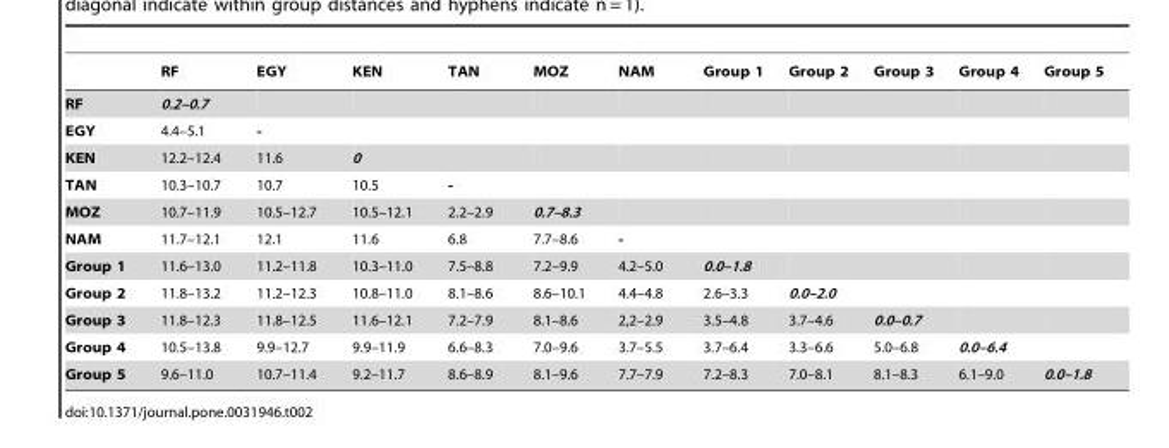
<table><thead><tr><td></td><td>RF</td><td>EGY</td><td>KEN</td><td>TAN</td><td>MOZ</td><td>NAM</td><td>Group 1</td><td>Group 2</td><td>Group 3</td><td>Group 4</td><td>Group 5</td></tr></thead><tbody><tr><td>RF</td><td>0.2–0.7</td><td></td><td></td><td></td><td></td><td></td><td></td><td></td><td></td><td></td><td></td></tr><tr><td>EGY</td><td>4.4–5.1</td><td>-</td><td></td><td></td><td></td><td></td><td></td><td></td><td></td><td></td><td></td></tr><tr><td>KEN</td><td>12.2–12.4</td><td>11.6</td><td>0</td><td></td><td></td><td></td><td></td><td></td><td></td><td></td><td></td></tr><tr><td>TAN</td><td>10.3–10.7</td><td>10.7</td><td>10.5</td><td>-</td><td></td><td></td><td></td><td></td><td></td><td></td><td></td></tr><tr><td>MOZ</td><td>10.7–11.9</td><td>10.5–12.7</td><td>10.5–12.1</td><td>2.2–2.9</td><td>0.7–8.3</td><td></td><td></td><td></td><td></td><td></td><td></td></tr><tr><td>NAM</td><td>11.7–12.1</td><td>12.1</td><td>11.6</td><td>6.8</td><td>7.7–8.6</td><td>-</td><td></td><td></td><td></td><td></td><td></td></tr><tr><td>Group 1</td><td>11.6–13.0</td><td>11.2–11.8</td><td>10.3–11.0</td><td>7.5–8.8</td><td>7.2–9.9</td><td>4.2–5.0</td><td>0.0–1.8</td><td></td><td></td><td></td><td></td></tr><tr><td>Group 2</td><td>11.8–13.2</td><td>11.2–12.3</td><td>10.8–11.0</td><td>8.1–8.6</td><td>8.6–10.1</td><td>4.4–4.8</td><td>2.6–3.3</td><td>0.0–2.0</td><td></td><td></td><td></td></tr><tr><td>Group 3</td><td>11.8–12.3</td><td>11.8–12.5</td><td>11.6–12.1</td><td>7.2–7.9</td><td>8.1–8.6</td><td>2,2–2.9</td><td>3.5–4.8</td><td>3.7–4.6</td><td>0.0–0.7</td><td></td><td></td></tr><tr><td>Group 4</td><td>10.5–13.8</td><td>9.9–12.7</td><td>9.9–11.9</td><td>6.6–8.3</td><td>7.0–9.6</td><td>3.7–5.5</td><td>3.7–6.4</td><td>3.3–6.6</td><td>5.0–6.8</td><td>0.0–6.4</td><td></td></tr><tr><td>Group 5</td><td>9.6–11.0</td><td>10.7–11.4</td><td>9.2–11.7</td><td>8.6–8.9</td><td>8.1–9.6</td><td>7.7–7.9</td><td>7.2–8.3</td><td>7.0–8.1</td><td>8.1–8.3</td><td>6.1–9.0</td><td>0.0–1.8</td></tr></tbody></table>